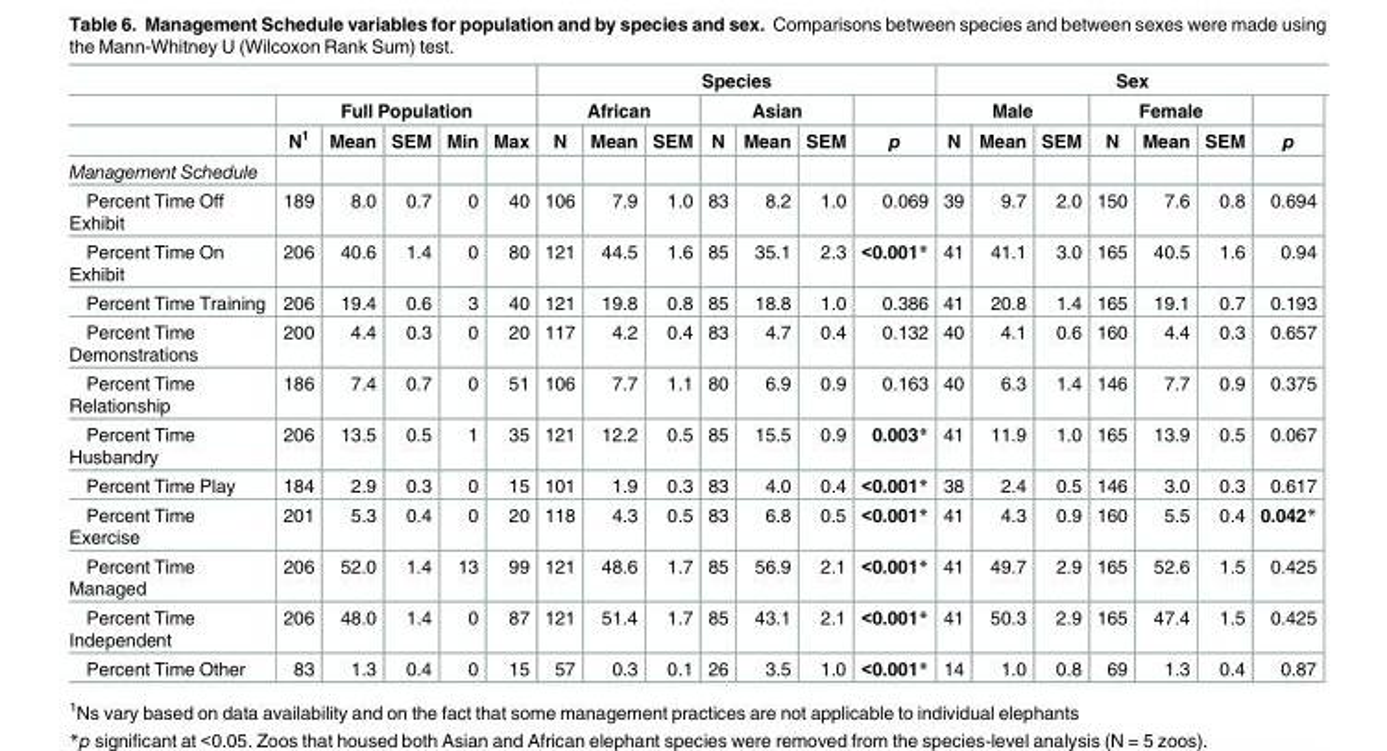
<table><thead><tr><td rowspan="3"></td><td></td><td></td><td></td><td></td><td></td><td colspan="7">Species</td><td colspan="7">Sex</td></tr><tr><td colspan="5">Full Population</td><td colspan="3">African</td><td colspan="3">Asian</td><td rowspan="2">p</td><td colspan="3">Male</td><td colspan="3">Female</td><td rowspan="2">p</td></tr><tr><td>N<sup>1</sup></td><td>Mean</td><td>SEM</td><td>Min</td><td>Max</td><td>N</td><td>Mean</td><td>SEM</td><td>N</td><td>Mean</td><td>SEM</td><td>N</td><td>Mean</td><td>SEM</td><td>N</td><td>Mean</td><td>SEM</td></tr></thead><tbody><tr><td colspan="20">Management Schedule</td></tr><tr><td>Percent Time Off Exhibit</td><td>189</td><td>8.0</td><td>0.7</td><td>0</td><td>40</td><td>106</td><td>7.9</td><td>1.0</td><td>83</td><td>8.2</td><td>1.0</td><td>0.069</td><td>39</td><td>9.7</td><td>2.0</td><td>150</td><td>7.6</td><td>0.8</td><td>0.694</td></tr><tr><td>Percent Time On Exhibit</td><td>206</td><td>40.6</td><td>1.4</td><td>0</td><td>80</td><td>121</td><td>44.5</td><td>1.6</td><td>85</td><td>35.1</td><td>2.3</td><td>&lt;0.001*</td><td>41</td><td>41.1</td><td>3.0</td><td>165</td><td>40.5</td><td>1.6</td><td>0.94</td></tr><tr><td>Percent Time Training</td><td>206</td><td>19.4</td><td>0.6</td><td>3</td><td>40</td><td>121</td><td>19.8</td><td>0.8</td><td>85</td><td>18.8</td><td>1.0</td><td>0.386</td><td>41</td><td>20.8</td><td>1.4</td><td>165</td><td>19.1</td><td>0.7</td><td>0.193</td></tr><tr><td>Percent Time Demonstrations</td><td>200</td><td>4.4</td><td>0.3</td><td>0</td><td>20</td><td>117</td><td>4.2</td><td>0.4</td><td>83</td><td>4.7</td><td>0.4</td><td>0.132</td><td>40</td><td>4.1</td><td>0.6</td><td>160</td><td>4.4</td><td>0.3</td><td>0.657</td></tr><tr><td>Percent Time Relationship</td><td>186</td><td>7.4</td><td>0.7</td><td>0</td><td>51</td><td>106</td><td>7.7</td><td>1.1</td><td>80</td><td>6.9</td><td>0.9</td><td>0.163</td><td>40</td><td>6.3</td><td>1.4</td><td>146</td><td>7.7</td><td>0.9</td><td>0.375</td></tr><tr><td>Percent Time Husbandry</td><td>206</td><td>13.5</td><td>0.5</td><td>1</td><td>35</td><td>121</td><td>12.2</td><td>0.5</td><td>85</td><td>15.5</td><td>0.9</td><td>0.003*</td><td>41</td><td>11.9</td><td>1.0</td><td>165</td><td>13.9</td><td>0.5</td><td>0.067</td></tr><tr><td>Percent Time Play</td><td>184</td><td>2.9</td><td>0.3</td><td>0</td><td>15</td><td>101</td><td>1.9</td><td>0.3</td><td>83</td><td>4.0</td><td>0.4</td><td>&lt;0.001*</td><td>38</td><td>2.4</td><td>0.5</td><td>146</td><td>3.0</td><td>0.3</td><td>0.617</td></tr><tr><td>Percent Time Exercise</td><td>201</td><td>5.3</td><td>0.4</td><td>0</td><td>20</td><td>118</td><td>4.3</td><td>0.5</td><td>83</td><td>6.8</td><td>0.5</td><td>&lt;0.001*</td><td>41</td><td>4.3</td><td>0.9</td><td>160</td><td>5.5</td><td>0.4</td><td>0.042*</td></tr><tr><td>Percent Time Managed</td><td>206</td><td>52.0</td><td>1.4</td><td>13</td><td>99</td><td>121</td><td>48.6</td><td>1.7</td><td>85</td><td>56.9</td><td>2.1</td><td>&lt;0.001*</td><td>41</td><td>49.7</td><td>2.9</td><td>165</td><td>52.6</td><td>1.5</td><td>0.425</td></tr><tr><td>Percent Time Independent</td><td>206</td><td>48.0</td><td>1.4</td><td>0</td><td>87</td><td>121</td><td>51.4</td><td>1.7</td><td>85</td><td>43.1</td><td>2.1</td><td>&lt;0.001*</td><td>41</td><td>50.3</td><td>2.9</td><td>165</td><td>47.4</td><td>1.5</td><td>0.425</td></tr><tr><td>Percent Time Other</td><td>83</td><td>1.3</td><td>0.4</td><td>0</td><td>15</td><td>57</td><td>0.3</td><td>0.1</td><td>26</td><td>3.5</td><td>1.0</td><td>&lt;0.001*</td><td>14</td><td>1.0</td><td>0.8</td><td>69</td><td>1.3</td><td>0.4</td><td>0.87</td></tr></tbody></table>